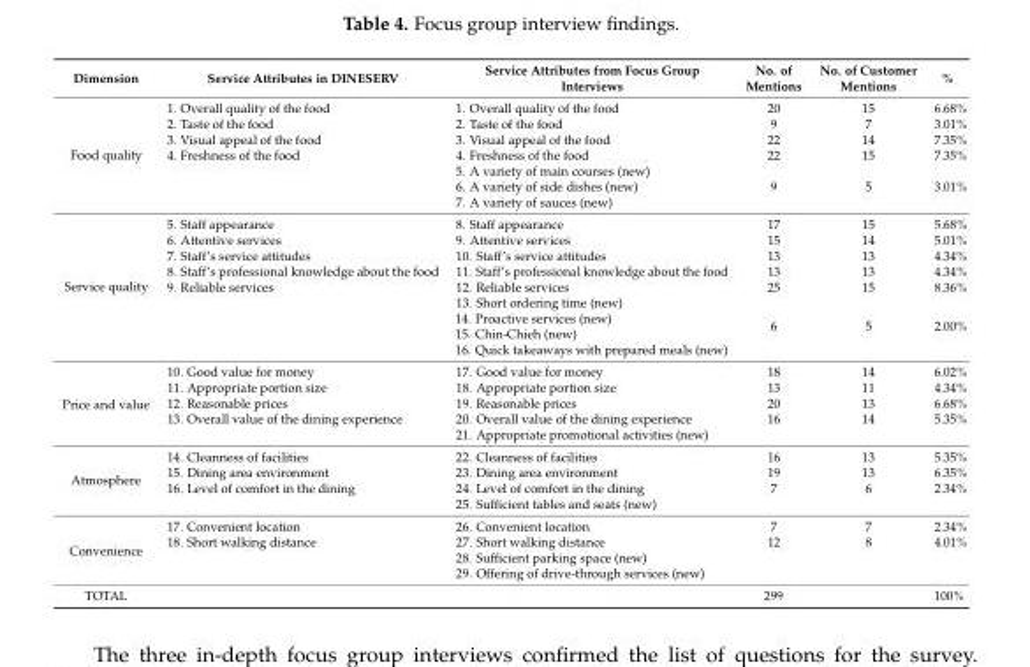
<table><thead><tr><td>Dimension</td><td>Service Attributes in DINESERV</td><td>Service Attributes from Focus Group Interviews</td><td>No. of Mentions</td><td>No. of Customer Mentions</td><td>%</td></tr></thead><tbody><tr><td rowspan="5">Food quality</td><td>1. Overall quality of the food</td><td>1. Overall quality of the food</td><td>20</td><td>15</td><td>6.68%</td></tr><tr><td>2. Taste of the food</td><td>2. Taste of the food</td><td>9</td><td>7</td><td>3.01%</td></tr><tr><td>3. Visual appeal of the food</td><td>3. Visual appeal of the food</td><td>22</td><td>14</td><td>7.35%</td></tr><tr><td>4. Freshness of the food</td><td>4. Freshness of the food</td><td>22</td><td>15</td><td>7.35%</td></tr><tr><td></td><td>5. A variety of main courses (new) 6. A variety of side dishes (new) 7. A variety of sauces (new)</td><td>9</td><td>5</td><td>3.01%</td></tr><tr><td rowspan="6">Service quality</td><td>5. Staff appearance</td><td>8. Staff appearance</td><td>17</td><td>15</td><td>5.68%</td></tr><tr><td>6. Attentive services</td><td>9. Attentive services</td><td>15</td><td>14</td><td>5.01%</td></tr><tr><td>7. Staff’s service attitudes</td><td>10. Staff’s service attitudes</td><td>13</td><td>13</td><td>4.34%</td></tr><tr><td>8. Staff’s professional knowledge about the food</td><td>11. Staff’s professional knowledge about the food</td><td>13</td><td>13</td><td>4.34%</td></tr><tr><td>9. Reliable services</td><td>12. Reliable services</td><td>25</td><td>15</td><td>8.36%</td></tr><tr><td></td><td>13. Short ordering time (new) 14. Proactive services (new) 15. Chin-Chieh (new) 16. Quick takeaways with prepared meals (new)</td><td>6</td><td>5</td><td>2.00%</td></tr><tr><td rowspan="5">Price and value</td><td>10. Good value for money</td><td>17. Good value for money</td><td>18</td><td>14</td><td>6.02%</td></tr><tr><td>11. Appropriate portion size</td><td>18. Appropriate portion size</td><td>13</td><td>11</td><td>4.34%</td></tr><tr><td>12. Reasonable prices</td><td>19. Reasonable prices</td><td>20</td><td>13</td><td>6.68%</td></tr><tr><td>13. Overall value of the dining experience</td><td>20. Overall value of the dining experience</td><td>16</td><td>14</td><td>5.35%</td></tr><tr><td></td><td>21. Appropriate promotional activities (new)</td><td></td><td></td><td></td></tr><tr><td rowspan="4">Atmosphere</td><td>14. Cleanness of facilities</td><td>22. Cleanness of facilities</td><td>16</td><td>13</td><td>5.35%</td></tr><tr><td>15. Dining area environment</td><td>23. Dining area environment</td><td>19</td><td>13</td><td>6.35%</td></tr><tr><td>16. Level of comfort in the dining</td><td>24. Level of comfort in the dining</td><td>7</td><td>6</td><td>2.34%</td></tr><tr><td></td><td>25. Sufficient tables and seats (new)</td><td></td><td></td><td></td></tr><tr><td rowspan="4">Convenience</td><td>17. Convenient location</td><td>26. Convenient location</td><td>7</td><td>7</td><td>2.34%</td></tr><tr><td>18. Short walking distance</td><td>27. Short walking distance</td><td>12</td><td>8</td><td>4.01%</td></tr><tr><td></td><td>28. Sufficient parking space (new)</td><td></td><td></td><td></td></tr><tr><td></td><td>29. Offering of drive-through services (new)</td><td></td><td></td><td></td></tr><tr><td>TOTAL</td><td colspan="2"></td><td>299</td><td></td><td>100%</td></tr></tbody></table>